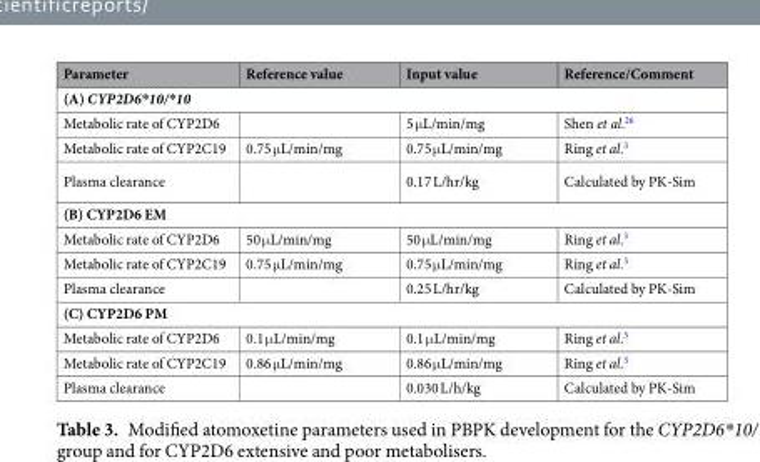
<table><thead><tr><td>Parameter</td><td>Reference value</td><td>Input value</td><td>Reference/Comment</td></tr></thead><tbody><tr><td colspan="4">(A) CYP2D6*10/*10</td></tr><tr><td>Metabolic rate of CYP2D6</td><td></td><td>5 μL/min/mg</td><td>Shen et al.<sup>26</sup></td></tr><tr><td>Metabolic rate of CYP2C19</td><td>0.75 μL/min/mg</td><td>0.75 μL/min/mg</td><td>Ring et al.<sup>3</sup></td></tr><tr><td>Plasma clearance</td><td></td><td>0.17 L/hr/kg</td><td>Calculated by PK-Sim</td></tr><tr><td colspan="4">(B) CYP2D6 EM</td></tr><tr><td>Metabolic rate of CYP2D6</td><td>50 μL/min/mg</td><td>50 μL/min/mg</td><td>Ring et al.<sup>3</sup></td></tr><tr><td>Metabolic rate of CYP2C19</td><td>0.75 μL/min/mg</td><td>0.75 μL/min/mg</td><td>Ring et al.<sup>3</sup></td></tr><tr><td>Plasma clearance</td><td></td><td>0.25 L/hr/kg</td><td>Calculated by PK-Sim</td></tr><tr><td colspan="4">(C) CYP2D6 PM</td></tr><tr><td>Metabolic rate of CYP2D6</td><td>0.1 μL/min/mg</td><td>0.1 μL/min/mg</td><td>Ring et al.<sup>3</sup></td></tr><tr><td>Metabolic rate of CYP2C19</td><td>0.86 μL/min/mg</td><td>0.86 μL/min/mg</td><td>Ring et al.<sup>3</sup></td></tr><tr><td>Plasma clearance</td><td></td><td>0.030 L/h/kg</td><td>Calculated by PK-Sim</td></tr></tbody></table>